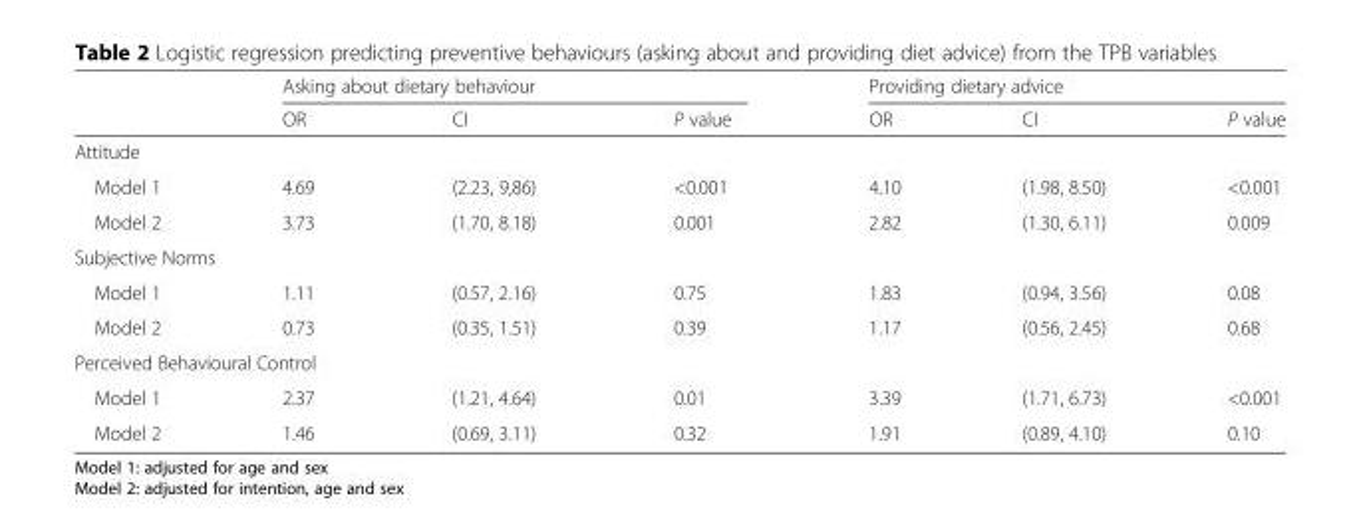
<table><thead><tr><td rowspan="2"></td><td colspan="3">Asking about dietary behaviour</td><td colspan="3">Providing dietary advice</td></tr><tr><td>OR</td><td>CI</td><td>P value</td><td>OR</td><td>CI</td><td>P value</td></tr></thead><tbody><tr><td colspan="7">Attitude</td></tr><tr><td>Model 1</td><td>4.69</td><td>(2.23, 9,86)</td><td>&lt;0.001</td><td>4.10</td><td>(1.98, 8.50)</td><td>&lt;0.001</td></tr><tr><td>Model 2</td><td>3.73</td><td>(1.70, 8.18)</td><td>0.001</td><td>2.82</td><td>(1.30, 6.11)</td><td>0.009</td></tr><tr><td colspan="7">Subjective Norms</td></tr><tr><td>Model 1</td><td>1.11</td><td>(0.57, 2.16)</td><td>0.75</td><td>1.83</td><td>(0.94, 3.56)</td><td>0.08</td></tr><tr><td>Model 2</td><td>0.73</td><td>(0.35, 1.51)</td><td>0.39</td><td>1.17</td><td>(0.56, 2.45)</td><td>0.68</td></tr><tr><td colspan="7">Perceived Behavioural Control</td></tr><tr><td>Model 1</td><td>2.37</td><td>(1.21, 4.64)</td><td>0.01</td><td>3.39</td><td>(1.71, 6.73)</td><td>&lt;0.001</td></tr><tr><td>Model 2</td><td>1.46</td><td>(0.69, 3.11)</td><td>0.32</td><td>1.91</td><td>(0.89, 4.10)</td><td>0.10</td></tr></tbody></table>